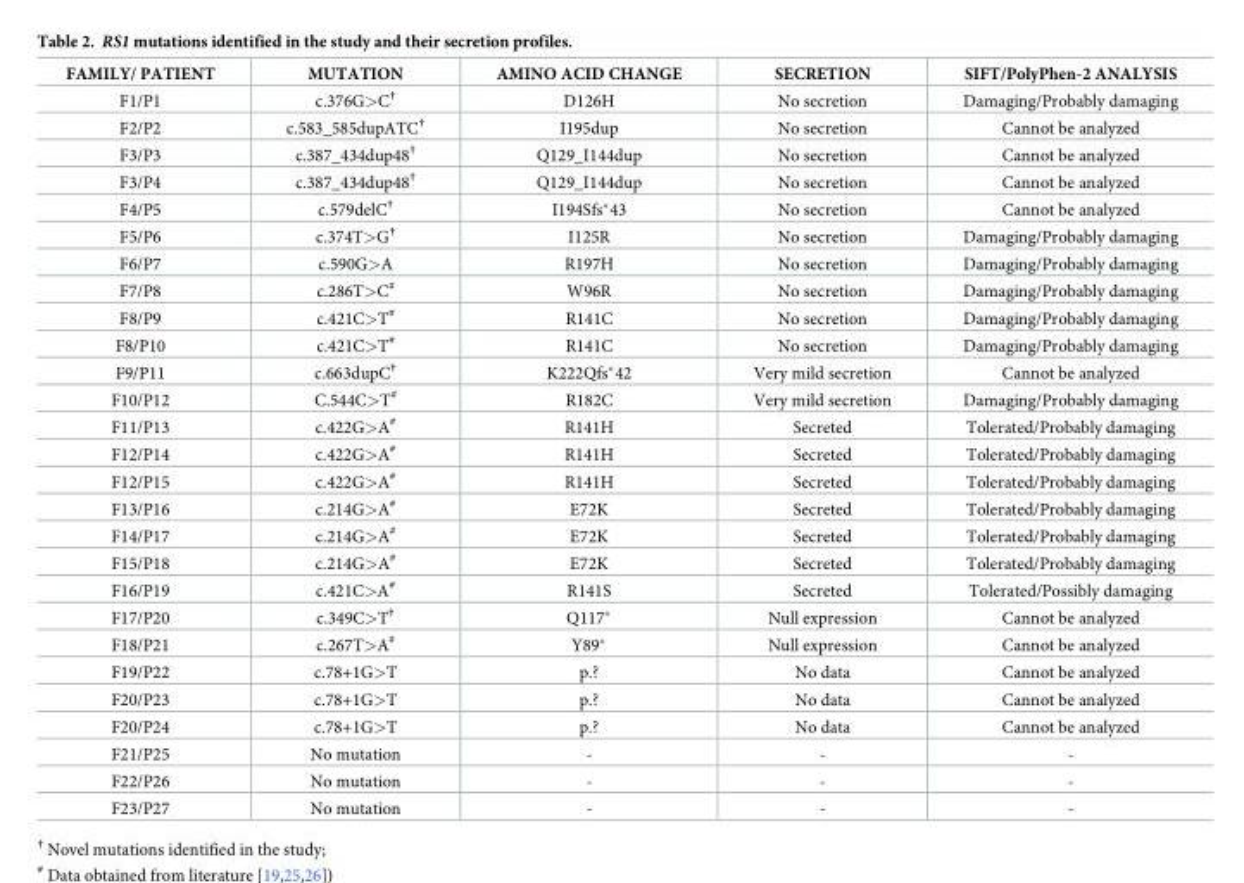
<table><thead><tr><td>FAMILY/ PATIENT</td><td>MUTATION</td><td>AMINO ACID CHANGE</td><td>SECRETION</td><td>SIFT/PolyPhen-2 ANALYSIS</td></tr></thead><tbody><tr><td>F1/P1</td><td>c.376G&gt;C<sup>†</sup></td><td>D126H</td><td>No secretion</td><td>Damaging/Probably damaging</td></tr><tr><td>F2/P2</td><td>c.583_585dupATC<sup>†</sup></td><td>I195dup</td><td>No secretion</td><td>Cannot be analyzed</td></tr><tr><td>F3/P3</td><td>c.387_434dup48<sup>†</sup></td><td>Q129_I144dup</td><td>No secretion</td><td>Cannot be analyzed</td></tr><tr><td>F3/P4</td><td>c.387_434dup48<sup>†</sup></td><td>Q129_I144dup</td><td>No secretion</td><td>Cannot be analyzed</td></tr><tr><td>F4/P5</td><td>c.579delC<sup>†</sup></td><td>I194Sfs*43</td><td>No secretion</td><td>Cannot be analyzed</td></tr><tr><td>F5/P6</td><td>c.374T&gt;G<sup>†</sup></td><td>I125R</td><td>No secretion</td><td>Damaging/Probably damaging</td></tr><tr><td>F6/P7</td><td>c.590G&gt;A</td><td>R197H</td><td>No secretion</td><td>Damaging/Probably damaging</td></tr><tr><td>F7/P8</td><td>c.286T&gt;C<sup>#</sup></td><td>W96R</td><td>No secretion</td><td>Damaging/Probably damaging</td></tr><tr><td>F8/P9</td><td>c.421C&gt;T<sup>#</sup></td><td>R141C</td><td>No secretion</td><td>Damaging/Probably damaging</td></tr><tr><td>F8/P10</td><td>c.421C&gt;T<sup>#</sup></td><td>R141C</td><td>No secretion</td><td>Damaging/Probably damaging</td></tr><tr><td>F9/P11</td><td>c.663dupC<sup>†</sup></td><td>K222Qfs*42</td><td>Very mild secretion</td><td>Cannot be analyzed</td></tr><tr><td>F10/P12</td><td>C.544C&gt;T<sup>#</sup></td><td>R182C</td><td>Very mild secretion</td><td>Damaging/Probably damaging</td></tr><tr><td>F11/P13</td><td>c.422G&gt;A<sup>#</sup></td><td>R141H</td><td>Secreted</td><td>Tolerated/Probably damaging</td></tr><tr><td>F12/P14</td><td>c.422G&gt;A<sup>#</sup></td><td>R141H</td><td>Secreted</td><td>Tolerated/Probably damaging</td></tr><tr><td>F12/P15</td><td>c.422G&gt;A<sup>#</sup></td><td>R141H</td><td>Secreted</td><td>Tolerated/Probably damaging</td></tr><tr><td>F13/P16</td><td>c.214G&gt;A<sup>#</sup></td><td>E72K</td><td>Secreted</td><td>Tolerated/Probably damaging</td></tr><tr><td>F14/P17</td><td>c.214G&gt;A<sup>#</sup></td><td>E72K</td><td>Secreted</td><td>Tolerated/Probably damaging</td></tr><tr><td>F15/P18</td><td>c.214G&gt;A<sup>#</sup></td><td>E72K</td><td>Secreted</td><td>Tolerated/Probably damaging</td></tr><tr><td>F16/P19</td><td>c.421C&gt;A<sup>#</sup></td><td>R141S</td><td>Secreted</td><td>Tolerated/Possibly damaging</td></tr><tr><td>F17/P20</td><td>c.349C&gt;T<sup>†</sup></td><td>Q117*</td><td>Null expression</td><td>Cannot be analyzed</td></tr><tr><td>F18/P21</td><td>c.267T&gt;A<sup>#</sup></td><td>Y89*</td><td>Null expression</td><td>Cannot be analyzed</td></tr><tr><td>F19/P22</td><td>c.78+1G&gt;T</td><td>p.?</td><td>No data</td><td>Cannot be analyzed</td></tr><tr><td>F20/P23</td><td>c.78+1G&gt;T</td><td>p.?</td><td>No data</td><td>Cannot be analyzed</td></tr><tr><td>F20/P24</td><td>c.78+1G&gt;T</td><td>p.?</td><td>No data</td><td>Cannot be analyzed</td></tr><tr><td>F21/P25</td><td>No mutation</td><td>-</td><td>-</td><td>-</td></tr><tr><td>F22/P26</td><td>No mutation</td><td>-</td><td>-</td><td>-</td></tr><tr><td>F23/P27</td><td>No mutation</td><td>-</td><td>-</td><td>-</td></tr></tbody></table>